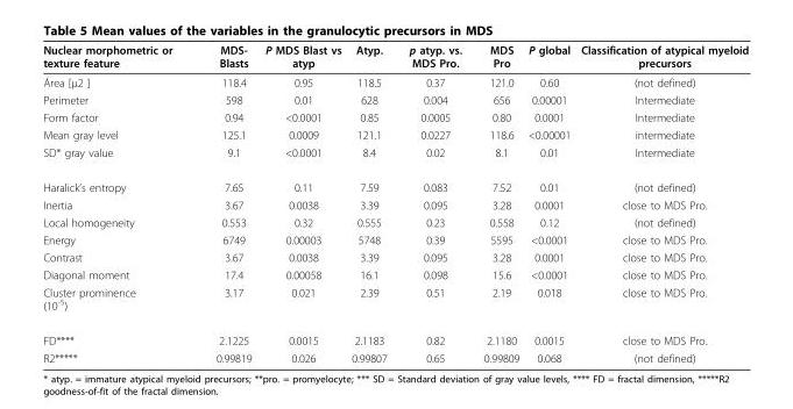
<table><thead><tr><td>Nuclear morphometric or texture feature</td><td>MDS- Blasts</td><td>P MDS Blast vs atyp</td><td>Atyp.</td><td>p atyp. vs. MDS Pro.</td><td>MDS Pro</td><td>P global</td><td>Classification of atypical myeloid precursors</td></tr></thead><tbody><tr><td>Área [μ2 ]</td><td>118.4</td><td>0.95</td><td>118.5</td><td>0.37</td><td>121.0</td><td>0.60</td><td>(not defined)</td></tr><tr><td>Perimeter</td><td>598</td><td>0.01</td><td>628</td><td>0.004</td><td>656</td><td>0.00001</td><td>Intermediate</td></tr><tr><td>Form factor</td><td>0.94</td><td>&lt;0.0001</td><td>0.85</td><td>0.0005</td><td>0.80</td><td>0.0001</td><td>Intermediate</td></tr><tr><td>Mean gray level</td><td>125.1</td><td>0.0009</td><td>121.1</td><td>0.0227</td><td>118.6</td><td>&lt;0.00001</td><td>intermediate</td></tr><tr><td>SD* gray value</td><td>9.1</td><td>&lt;0.0001</td><td>8.4</td><td>0.02</td><td>8.1</td><td>0.01</td><td>Intermediate</td></tr><tr><td>Haralick’s entropy</td><td>7.65</td><td>0.11</td><td>7.59</td><td>0.083</td><td>7.52</td><td>0.01</td><td>(not defined)</td></tr><tr><td>Inertia</td><td>3.67</td><td>0.0038</td><td>3.39</td><td>0.095</td><td>3.28</td><td>0.0001</td><td>close to MDS Pro.</td></tr><tr><td>Local homogeneity</td><td>0.553</td><td>0.32</td><td>0.555</td><td>0.23</td><td>0.558</td><td>0.12</td><td>(not defined)</td></tr><tr><td>Energy</td><td>6749</td><td>0.00003</td><td>5748</td><td>0.39</td><td>5595</td><td>&lt;0.0001</td><td>close to MDS Pro.</td></tr><tr><td>Contrast</td><td>3.67</td><td>0.0038</td><td>3.39</td><td>0.095</td><td>3.28</td><td>0.0001</td><td>close to MDS Pro.</td></tr><tr><td>Diagonal moment</td><td>17.4</td><td>0.00058</td><td>16.1</td><td>0.098</td><td>15.6</td><td>&lt;0.0001</td><td>close to MDS Pro.</td></tr><tr><td>Cluster prominence (10<sup>-5</sup>)</td><td>3.17</td><td>0.021</td><td>2.39</td><td>0.51</td><td>2.19</td><td>0.018</td><td>close to MDS Pro.</td></tr><tr><td>FD****</td><td>2.1225</td><td>0.0015</td><td>2.1183</td><td>0.82</td><td>2.1180</td><td>0.0015</td><td>close to MDS Pro.</td></tr><tr><td>R2*****</td><td>0.99819</td><td>0.026</td><td>0.99807</td><td>0.65</td><td>0.99809</td><td>0.068</td><td>(not defined)</td></tr></tbody></table>